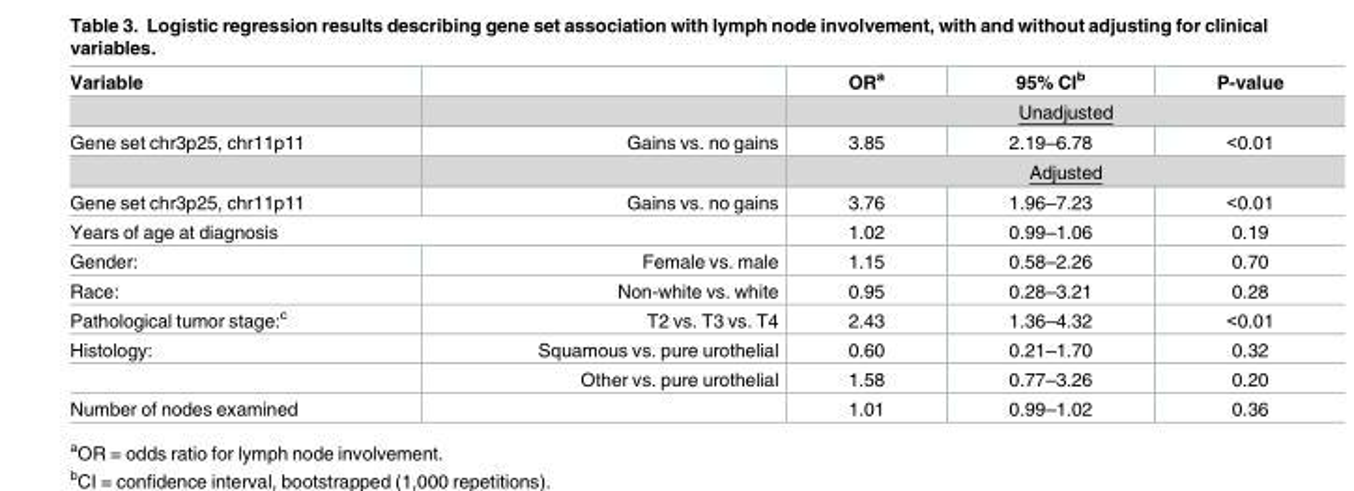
<table><thead><tr><td>Variable</td><td></td><td>OR<sup>a</sup></td><td>95% CI<sup>b</sup></td><td>P-value</td></tr></thead><tbody><tr><td></td><td></td><td colspan="3">Unadjusted</td></tr><tr><td rowspan="2">Gene set chr3p25, chr11p11</td><td>Gains vs. no gains</td><td>3.85</td><td>2.19–6.78</td><td>&lt;0.01</td></tr><tr><td></td><td colspan="3">Adjusted</td></tr><tr><td>Gene set chr3p25, chr11p11</td><td>Gains vs. no gains</td><td>3.76</td><td>1.96–7.23</td><td>&lt;0.01</td></tr><tr><td colspan="2">Years of age at diagnosis</td><td>1.02</td><td>0.99–1.06</td><td>0.19</td></tr><tr><td>Gender:</td><td>Female vs. male</td><td>1.15</td><td>0.58–2.26</td><td>0.70</td></tr><tr><td>Race:</td><td>Non-white vs. white</td><td>0.95</td><td>0.28–3.21</td><td>0.28</td></tr><tr><td>Pathological tumor stage:<sup>c</sup></td><td>T2 vs. T3 vs. T4</td><td>2.43</td><td>1.36–4.32</td><td>&lt;0.01</td></tr><tr><td rowspan="2">Histology:</td><td>Squamous vs. pure urothelial</td><td>0.60</td><td>0.21–1.70</td><td>0.32</td></tr><tr><td>Other vs. pure urothelial</td><td>1.58</td><td>0.77–3.26</td><td>0.20</td></tr><tr><td>Number of nodes examined</td><td></td><td>1.01</td><td>0.99–1.02</td><td>0.36</td></tr></tbody></table>